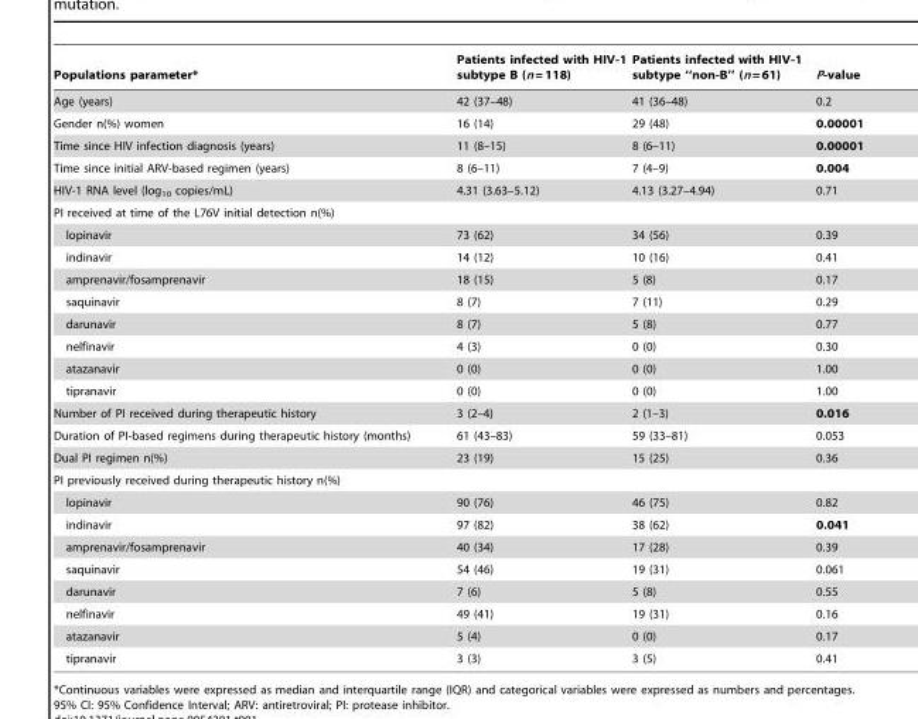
<table><thead><tr><td>Populations parameter*</td><td>Patients infected with HIV-1 subtype B (n = 118)</td><td>Patients infected with HIV-1 subtype ‘‘non-B’’ (n = 61)</td><td>P-value</td></tr></thead><tbody><tr><td>Age (years)</td><td>42 (37–48)</td><td>41 (36–48)</td><td>0.2</td></tr><tr><td>Gender n(%) women</td><td>16 (14)</td><td>29 (48)</td><td>0.00001</td></tr><tr><td>Time since HIV infection diagnosis (years)</td><td>11 (8–15)</td><td>8 (6–11)</td><td>0.00001</td></tr><tr><td>Time since initial ARV-based regimen (years)</td><td>8 (6–11)</td><td>7 (4–9)</td><td>0.004</td></tr><tr><td>HIV-1 RNA level (log<sub>10</sub> copies/mL)</td><td>4.31 (3.63–5.12)</td><td>4.13 (3.27–4.94)</td><td>0.71</td></tr><tr><td colspan="4">PI received at time of the L76V initial detection n(%)</td></tr><tr><td>lopinavir</td><td>73 (62)</td><td>34 (56)</td><td>0.39</td></tr><tr><td>indinavir</td><td>14 (12)</td><td>10 (16)</td><td>0.41</td></tr><tr><td>amprenavir/fosamprenavir</td><td>18 (15)</td><td>5 (8)</td><td>0.17</td></tr><tr><td>saquinavir</td><td>8 (7)</td><td>7 (11)</td><td>0.29</td></tr><tr><td>darunavir</td><td>8 (7)</td><td>5 (8)</td><td>0.77</td></tr><tr><td>nelfinavir</td><td>4 (3)</td><td>0 (0)</td><td>0.30</td></tr><tr><td>atazanavir</td><td>0 (0)</td><td>0 (0)</td><td>1.00</td></tr><tr><td>tipranavir</td><td>0 (0)</td><td>0 (0)</td><td>1.00</td></tr><tr><td>Number of PI received during therapeutic history</td><td>3 (2–4)</td><td>2 (1–3)</td><td>0.016</td></tr><tr><td>Duration of PI-based regimens during therapeutic history (months)</td><td>61 (43–83)</td><td>59 (33–81)</td><td>0.053</td></tr><tr><td>Dual PI regimen n(%)</td><td>23 (19)</td><td>15 (25)</td><td>0.36</td></tr><tr><td colspan="4">PI previously received during therapeutic history n(%)</td></tr><tr><td>lopinavir</td><td>90 (76)</td><td>46 (75)</td><td>0.82</td></tr><tr><td>indinavir</td><td>97 (82)</td><td>38 (62)</td><td>0.041</td></tr><tr><td>amprenavir/fosamprenavir</td><td>40 (34)</td><td>17 (28)</td><td>0.39</td></tr><tr><td>saquinavir</td><td>54 (46)</td><td>19 (31)</td><td>0.061</td></tr><tr><td>darunavir</td><td>7 (6)</td><td>5 (8)</td><td>0.55</td></tr><tr><td>nelfinavir</td><td>49 (41)</td><td>19 (31)</td><td>0.16</td></tr><tr><td>atazanavir</td><td>5 (4)</td><td>0 (0)</td><td>0.17</td></tr><tr><td>tipranavir</td><td>3 (3)</td><td>3 (5)</td><td>0.41</td></tr></tbody></table>